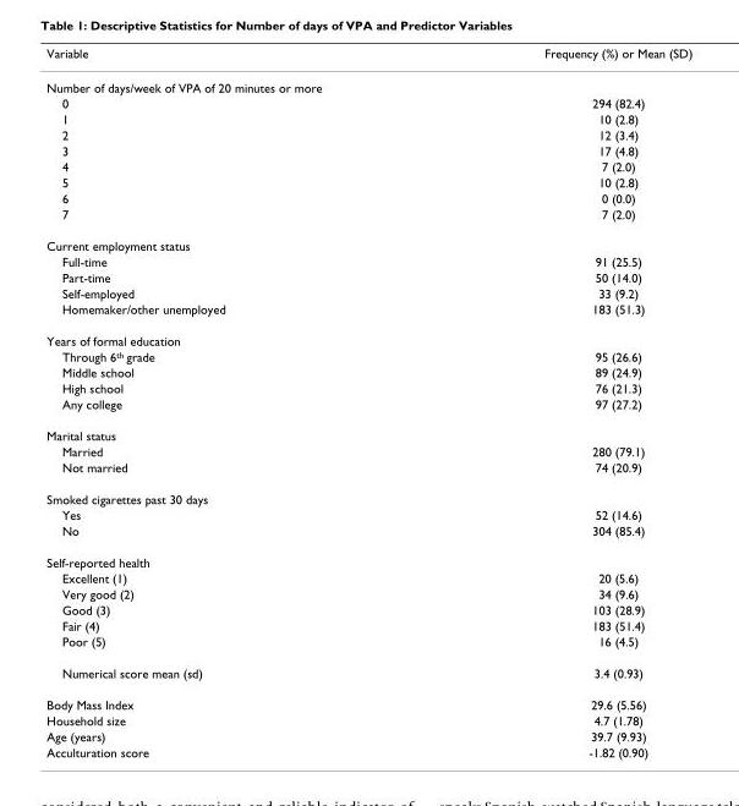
<table><thead><tr><td>Variable</td><td>Frequency (%) or Mean (SD)</td></tr></thead><tbody><tr><td colspan="2">Number of days/week of VPA of 20 minutes or more</td></tr><tr><td>0</td><td>294 (82.4)</td></tr><tr><td>1</td><td>10 (2.8)</td></tr><tr><td>2</td><td>12 (3.4)</td></tr><tr><td>3</td><td>17 (4.8)</td></tr><tr><td>4</td><td>7 (2.0)</td></tr><tr><td>5</td><td>10 (2.8)</td></tr><tr><td>6</td><td>0 (0.0)</td></tr><tr><td>7</td><td>7 (2.0)</td></tr><tr><td colspan="2">Current employment status</td></tr><tr><td>Full-time</td><td>91 (25.5)</td></tr><tr><td>Part-time</td><td>50 (14.0)</td></tr><tr><td>Self-employed</td><td>33 (9.2)</td></tr><tr><td>Homemaker/other unemployed</td><td>183 (51.3)</td></tr><tr><td colspan="2">Years of formal education</td></tr><tr><td>Through 6<sup>th</sup> grade</td><td>95 (26.6)</td></tr><tr><td>Middle school</td><td>89 (24.9)</td></tr><tr><td>High school</td><td>76 (21.3)</td></tr><tr><td>Any college</td><td>97 (27.2)</td></tr><tr><td colspan="2">Marital status</td></tr><tr><td>Married</td><td>280 (79.1)</td></tr><tr><td>Not married</td><td>74 (20.9)</td></tr><tr><td colspan="2">Smoked cigarettes past 30 days</td></tr><tr><td>Yes</td><td>52 (14.6)</td></tr><tr><td>No</td><td>304 (85.4)</td></tr><tr><td colspan="2">Self-reported health</td></tr><tr><td>Excellent (1)</td><td>20 (5.6)</td></tr><tr><td>Very good (2)</td><td>34 (9.6)</td></tr><tr><td>Good (3)</td><td>103 (28.9)</td></tr><tr><td>Fair (4)</td><td>183 (51.4)</td></tr><tr><td>Poor (5)</td><td>16 (4.5)</td></tr><tr><td>Numerical score mean (sd)</td><td>3.4 (0.93)</td></tr><tr><td>Body Mass Index</td><td>29.6 (5.56)</td></tr><tr><td>Household size</td><td>4.7 (1.78)</td></tr><tr><td>Age (years)</td><td>39.7 (9.93)</td></tr><tr><td>Acculturation score</td><td>-1.82 (0.90)</td></tr></tbody></table>